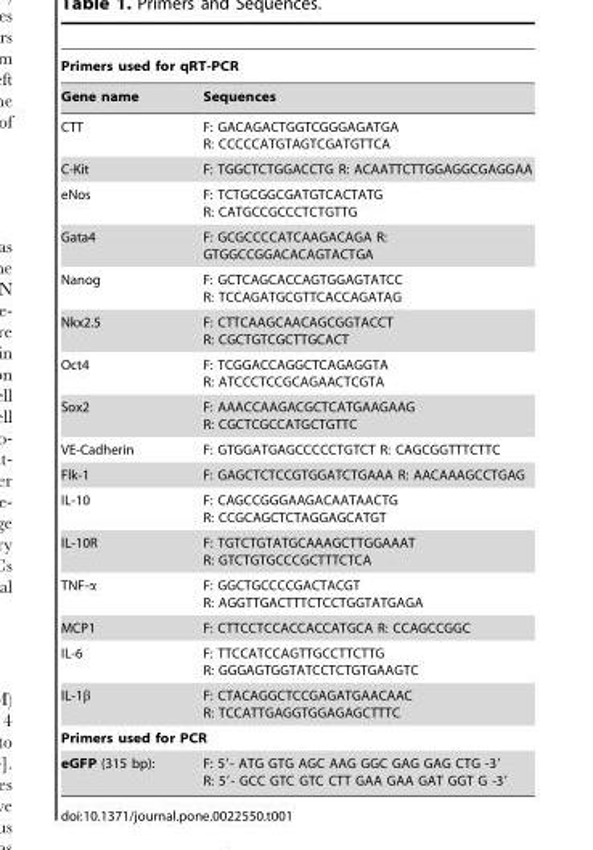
<table><thead><tr><td colspan="2">Primers used for qRT-PCR</td></tr><tr><td>Gene name</td><td>Sequences</td></tr></thead><tbody><tr><td>CTT</td><td>F: GACAGACTGGTCGGGAGATGA R: CCCCCATGTAGTCGATGTTCA</td></tr><tr><td>C-Kit</td><td>F: TGGCTCTGGACCTG R: ACAATTCTTGGAGGCGAGGAA</td></tr><tr><td>eNos</td><td>F: TCTGCGGCGATGTCACTATG R: CATGCCGCCCTCTGTTG</td></tr><tr><td>Gata4</td><td>F: GCGCCCCATCAAGACAGA R: GTGGCCGGACACAGTACTGA</td></tr><tr><td>Nanog</td><td>F: GCTCAGCACCAGTGGAGTATCC R: TCCAGATGCGTTCACCAGATAG</td></tr><tr><td>Nkx2.5</td><td>F: CTTCAAGCAACAGCGGTACCT R: CGCTGTCGCTTGCACT</td></tr><tr><td>Oct4</td><td>F: TCGGACCAGGCTCAGAGGTA R: ATCCCTCCGCAGAACTCGTA</td></tr><tr><td>Sox2</td><td>F: AAACCAAGACGCTCATGAAGAAG R: CGCTCGCCATGCTGTTC</td></tr><tr><td>VE-Cadherin</td><td>F: GTGGATGAGCCCCCTGTCT R: CAGCGGTTTCTTC</td></tr><tr><td>Flk-1</td><td>F: GAGCTCTCCGTGGATCTGAAA R: AACAAAGCCTGAG</td></tr><tr><td>IL-10</td><td>F: CAGCCGGGAAGACAATAACTG R: CCGCAGCTCTAGGAGCATGT</td></tr><tr><td>IL-10R</td><td>F: TGTCTGTATGCAAAGCTTGGAAAT R: GTCTGTGCCCGCTTTCTCA</td></tr><tr><td>TNF-α</td><td>F: GGCTGCCCCGACTACGT R: AGGTTGACTTTCTCCTGGTATGAGA</td></tr><tr><td>MCP1</td><td>F: CTTCCTCCACCACCATGCA R: CCAGCCGGC</td></tr><tr><td>IL-6</td><td>F: TTCCATCCAGTTGCCTTCTTG R: GGGAGTGGTATCCTCTGTGAAGTC</td></tr><tr><td>IL-1β</td><td>F: CTACAGGCTCCGAGATGAACAAC R: TCCATTGAGGTGGAGAGCTTTC</td></tr><tr><td colspan="2">Primers used for PCR</td></tr><tr><td>eGFP (315 bp):</td><td>F: 5′- ATG GTG AGC AAG GGC GAG GAG CTG -3′ R: 5′- GCC GTC GTC CTT GAA GAA GAT GGT G -3′</td></tr></tbody></table>